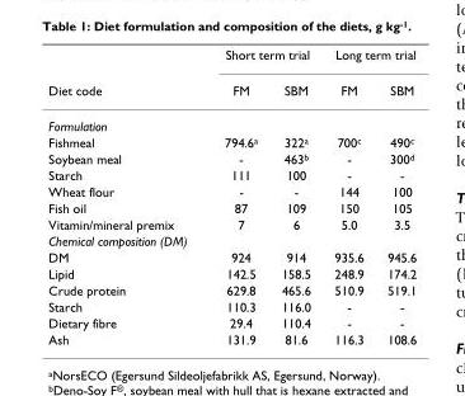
<table><thead><tr><td rowspan="2">Diet code</td><td colspan="2">Short term trial</td><td colspan="2">Long term trial</td></tr><tr><td>FM</td><td>SBM</td><td>FM</td><td>SBM</td></tr></thead><tbody><tr><td colspan="5">Formulation</td></tr><tr><td>Fishmeal</td><td>794.6<sup>a</sup></td><td>322<sup>a</sup></td><td>700<sup>c</sup></td><td>490<sup>c</sup></td></tr><tr><td>Soybean meal</td><td>-</td><td>463<sup>b</sup></td><td>-</td><td>300<sup>d</sup></td></tr><tr><td>Starch</td><td>111</td><td>100</td><td>-</td><td>-</td></tr><tr><td>Wheat flour</td><td>-</td><td>-</td><td>144</td><td>100</td></tr><tr><td>Fish oil</td><td>87</td><td>109</td><td>150</td><td>105</td></tr><tr><td>Vitamin/mineral premix</td><td>7</td><td>6</td><td>5.0</td><td>3.5</td></tr><tr><td colspan="5">Chemical composition (DM)</td></tr><tr><td>DM</td><td>924</td><td>914</td><td>935.6</td><td>945.6</td></tr><tr><td>Lipid</td><td>142.5</td><td>158.5</td><td>248.9</td><td>174.2</td></tr><tr><td>Crude protein</td><td>629.8</td><td>465.6</td><td>510.9</td><td>519.1</td></tr><tr><td>Starch</td><td>110.3</td><td>116.0</td><td>-</td><td>-</td></tr><tr><td>Dietary fibre</td><td>29.4</td><td>110.4</td><td>-</td><td>-</td></tr><tr><td>Ash</td><td>131.9</td><td>81.6</td><td>116.3</td><td>108.6</td></tr></tbody></table>